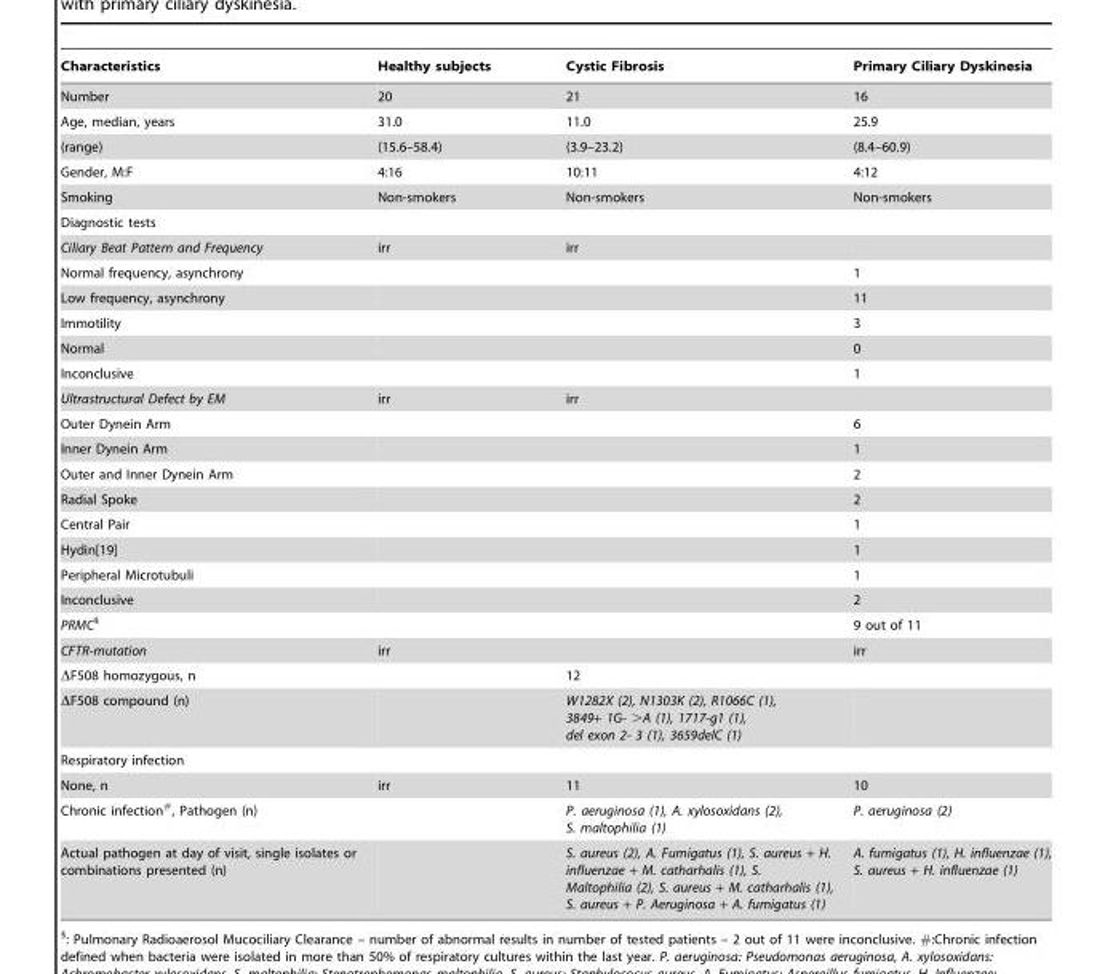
<table><thead><tr><td>Characteristics</td><td>Healthy subjects</td><td>Cystic Fibrosis</td><td>Primary Ciliary Dyskinesia</td></tr></thead><tbody><tr><td>Number</td><td>20</td><td>21</td><td>16</td></tr><tr><td>Age, median, years</td><td>31.0</td><td>11.0</td><td>25.9</td></tr><tr><td>(range)</td><td>(15.6–58.4)</td><td>(3.9–23.2)</td><td>(8.4–60.9)</td></tr><tr><td>Gender, M:F</td><td>4:16</td><td>10:11</td><td>4:12</td></tr><tr><td>Smoking</td><td>Non-smokers</td><td>Non-smokers</td><td>Non-smokers</td></tr><tr><td colspan="4">Diagnostic tests</td></tr><tr><td>Ciliary Beat Pattern and Frequency</td><td>irr</td><td>irr</td><td></td></tr><tr><td>Normal frequency, asynchrony</td><td></td><td></td><td>1</td></tr><tr><td>Low frequency, asynchrony</td><td></td><td></td><td>11</td></tr><tr><td>Immotility</td><td></td><td></td><td>3</td></tr><tr><td>Normal</td><td></td><td></td><td>0</td></tr><tr><td>Inconclusive</td><td></td><td></td><td>1</td></tr><tr><td>Ultrastructural Defect by EM</td><td>irr</td><td>irr</td><td></td></tr><tr><td>Outer Dynein Arm</td><td></td><td></td><td>6</td></tr><tr><td>Inner Dynein Arm</td><td></td><td></td><td>1</td></tr><tr><td>Outer and Inner Dynein Arm</td><td></td><td></td><td>2</td></tr><tr><td>Radial Spoke</td><td></td><td></td><td>2</td></tr><tr><td>Central Pair</td><td></td><td></td><td>1</td></tr><tr><td>Hydin[19]</td><td></td><td></td><td>1</td></tr><tr><td>Peripheral Microtubuli</td><td></td><td></td><td>1</td></tr><tr><td>Inconclusive</td><td></td><td></td><td>2</td></tr><tr><td>PRMC§</td><td></td><td></td><td>9 out of 11</td></tr><tr><td>CFTR-mutation</td><td>irr</td><td></td><td>irr</td></tr><tr><td>ΔF508 homozygous, n</td><td></td><td>12</td><td></td></tr><tr><td>ΔF508 compound (n)</td><td></td><td>W1282X (2), N1303K (2), R1066C (1), 3849+ 1G- &gt;A (1), 1717-g1 (1), del exon 2- 3 (1), 3659delC (1)</td><td></td></tr><tr><td colspan="4">Respiratory infection</td></tr><tr><td>None, n</td><td>irr</td><td>11</td><td>10</td></tr><tr><td>Chronic infection<sup>#</sup>, Pathogen (n)</td><td></td><td>P. aeruginosa (1), A. xylosoxidans (2), S. maltophilia (1)</td><td>P. aeruginosa (2)</td></tr><tr><td>Actual pathogen at day of visit, single isolates or combinations presented (n)</td><td></td><td>S. aureus (2), A. Fumigatus (1), S. aureus + H. influenzae + M. catharhalis (1), S. Maltophilia (2), S. aureus + M. catharhalis (1), S. aureus + P. Aeruginosa + A. fumigatus (1)</td><td>A. fumigatus (1), H. influenzae (1), S. aureus + H. influenzae (1)</td></tr></tbody></table>